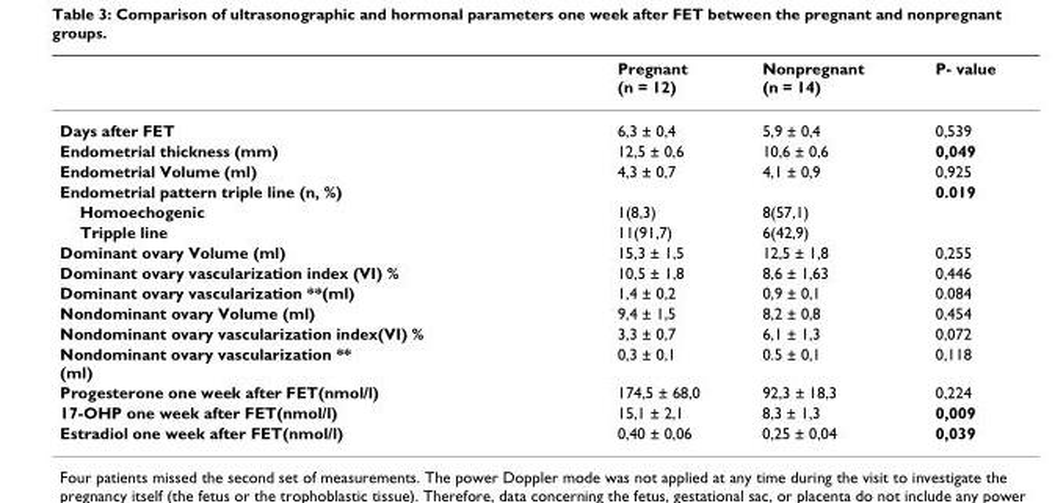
<table><thead><tr><td></td><td>Pregnant (n = 12)</td><td>Nonpregnant (n = 14)</td><td>P- value</td></tr></thead><tbody><tr><td>Days after FET</td><td>6,3 ± 0,4</td><td>5,9 ± 0,4</td><td>0,539</td></tr><tr><td>Endometrial thickness (mm)</td><td>12,5 ± 0,6</td><td>10,6 ± 0,6</td><td>0,049</td></tr><tr><td>Endometrial Volume (ml)</td><td>4,3 ± 0,7</td><td>4,1 ± 0,9</td><td>0,925</td></tr><tr><td>Endometrial pattern triple line (n, %)</td><td></td><td></td><td>0.019</td></tr><tr><td>Homoechogenic</td><td>1(8,3)</td><td>8(57,1)</td><td></td></tr><tr><td>Tripple line</td><td>11(91,7)</td><td>6(42,9)</td><td></td></tr><tr><td>Dominant ovary Volume (ml)</td><td>15,3 ± 1,5</td><td>12,5 ± 1,8</td><td>0,255</td></tr><tr><td>Dominant ovary vascularization index (VI) %</td><td>10,5 ± 1,8</td><td>8,6 ± 1,63</td><td>0,446</td></tr><tr><td>Dominant ovary vascularization **(ml)</td><td>1,4 ± 0,2</td><td>0,9 ± 0,1</td><td>0.084</td></tr><tr><td>Nondominant ovary Volume (ml)</td><td>9,4 ± 1,5</td><td>8,2 ± 0,8</td><td>0,454</td></tr><tr><td>Nondominant ovary vascularization index(VI) %</td><td>3,3 ± 0,7</td><td>6,1 ± 1,3</td><td>0,072</td></tr><tr><td>Nondominant ovary vascularization ** (ml)</td><td>0,3 ± 0,1</td><td>0.5 ± 0,1</td><td>0,118</td></tr><tr><td>Progesterone one week after FET(nmol/l)</td><td>174,5 ± 68,0</td><td>92,3 ± 18,3</td><td>0,224</td></tr><tr><td>17-OHP one week after FET(nmol/l)</td><td>15,1 ± 2,1</td><td>8,3 ± 1,3</td><td>0,009</td></tr><tr><td>Estradiol one week after FET(nmol/l)</td><td>0,40 ± 0,06</td><td>0,25 ± 0,04</td><td>0,039</td></tr></tbody></table>